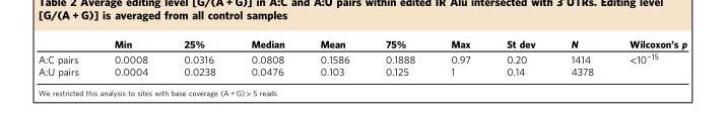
<table><thead><tr><td></td><td>Min</td><td>25%</td><td>Median</td><td>Mean</td><td>75%</td><td>Max</td><td>St dev</td><td>N</td><td>Wilcoxon’s p</td></tr></thead><tbody><tr><td>A:C pairs</td><td>0.0008</td><td>0.0316</td><td>0.0808</td><td>0.1586</td><td>0.1888</td><td>0.97</td><td>0.20</td><td>1414</td><td>&lt;10<sup>−15</sup></td></tr><tr><td>A:U pairs</td><td>0.0004</td><td>0.0238</td><td>0.0476</td><td>0.103</td><td>0.125</td><td>1</td><td>0.14</td><td>4378</td><td></td></tr></tbody></table>